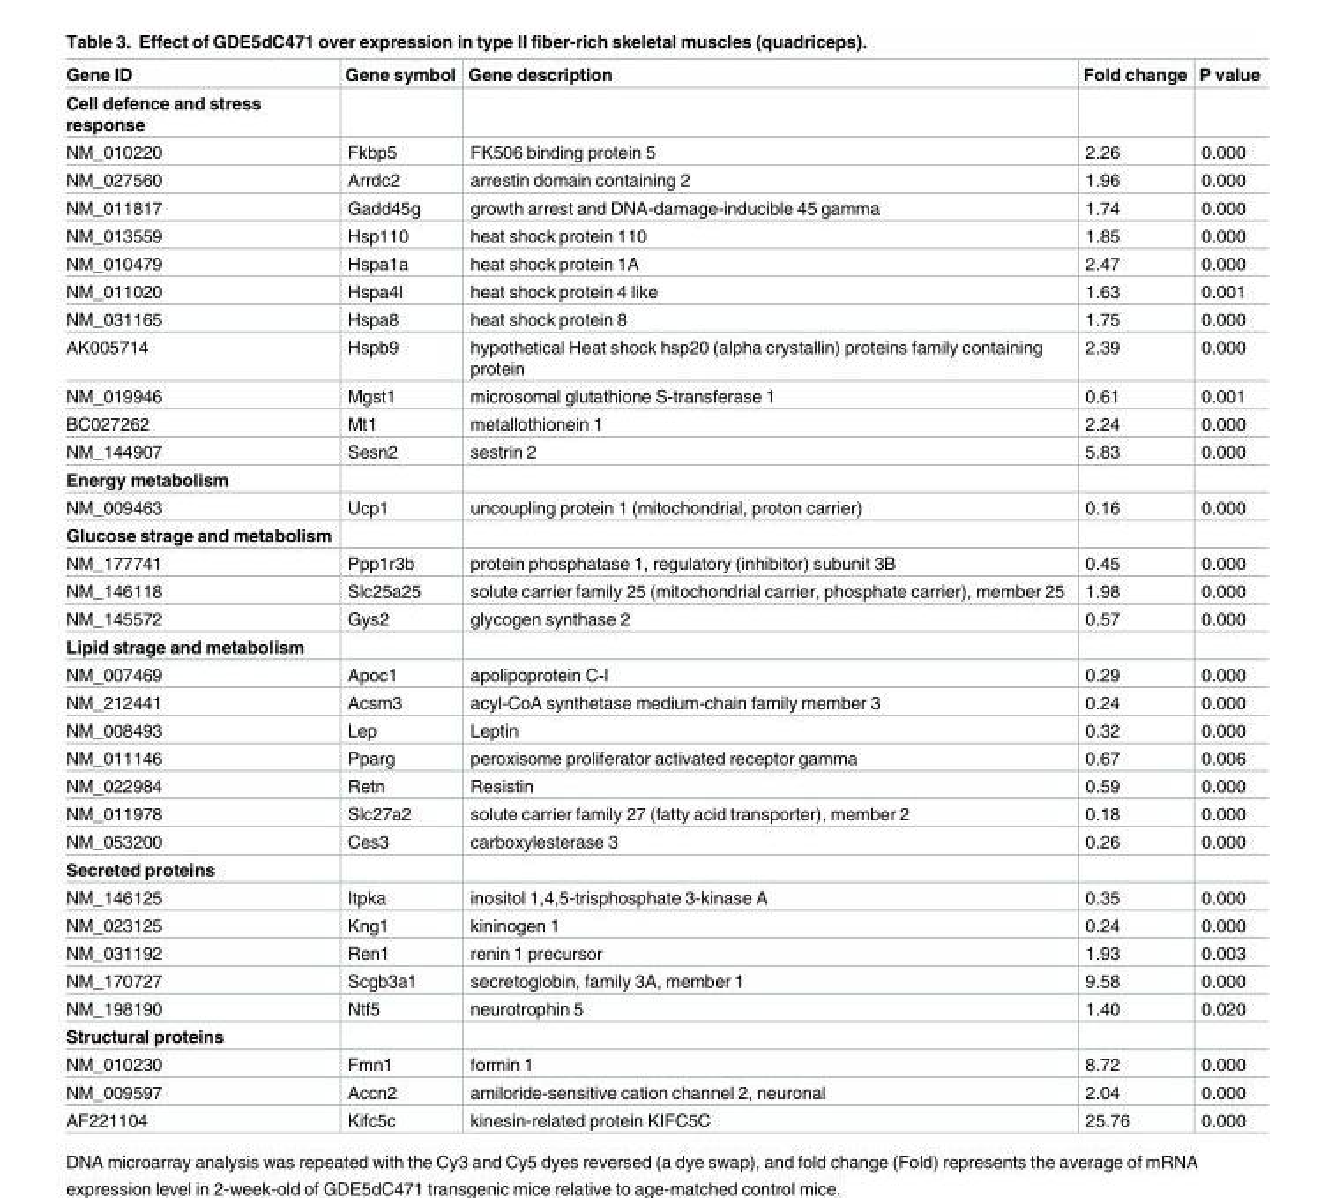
<table><thead><tr><td>Gene ID</td><td>Gene symbol</td><td>Gene description</td><td>Fold change</td><td>P value</td></tr></thead><tbody><tr><td colspan="5">Cell defence and stress response</td></tr><tr><td>NM_010220</td><td>Fkbp5</td><td>FK506 binding protein 5</td><td>2.26</td><td>0.000</td></tr><tr><td>NM_027560</td><td>Arrdc2</td><td>arrestin domain containing 2</td><td>1.96</td><td>0.000</td></tr><tr><td>NM_011817</td><td>Gadd45g</td><td>growth arrest and DNA-damage-inducible 45 gamma</td><td>1.74</td><td>0.000</td></tr><tr><td>NM_013559</td><td>Hsp110</td><td>heat shock protein 110</td><td>1.85</td><td>0.000</td></tr><tr><td>NM_010479</td><td>Hspa1a</td><td>heat shock protein 1A</td><td>2.47</td><td>0.000</td></tr><tr><td>NM_011020</td><td>Hspa4l</td><td>heat shock protein 4 like</td><td>1.63</td><td>0.001</td></tr><tr><td>NM_031165</td><td>Hspa8</td><td>heat shock protein 8</td><td>1.75</td><td>0.000</td></tr><tr><td>AK005714</td><td>Hspb9</td><td>hypothetical Heat shock hsp20 (alpha crystallin) proteins family containing protein</td><td>2.39</td><td>0.000</td></tr><tr><td>NM_019946</td><td>Mgst1</td><td>microsomal glutathione S-transferase 1</td><td>0.61</td><td>0.001</td></tr><tr><td>BC027262</td><td>Mt1</td><td>metallothionein 1</td><td>2.24</td><td>0.000</td></tr><tr><td>NM_144907</td><td>Sesn2</td><td>sestrin 2</td><td>5.83</td><td>0.000</td></tr><tr><td colspan="5">Energy metabolism</td></tr><tr><td>NM_009463</td><td>Ucp1</td><td>uncoupling protein 1 (mitochondrial, proton carrier)</td><td>0.16</td><td>0.000</td></tr><tr><td colspan="5">Glucose strage and metabolism</td></tr><tr><td>NM_177741</td><td>Ppp1r3b</td><td>protein phosphatase 1, regulatory (inhibitor) subunit 3B</td><td>0.45</td><td>0.000</td></tr><tr><td>NM_146118</td><td>Slc25a25</td><td>solute carrier family 25 (mitochondrial carrier, phosphate carrier), member 25</td><td>1.98</td><td>0.000</td></tr><tr><td>NM_145572</td><td>Gys2</td><td>glycogen synthase 2</td><td>0.57</td><td>0.000</td></tr><tr><td colspan="5">Lipid strage and metabolism</td></tr><tr><td>NM_007469</td><td>Apoc1</td><td>apolipoprotein C-I</td><td>0.29</td><td>0.000</td></tr><tr><td>NM_212441</td><td>Acsm3</td><td>acyl-CoA synthetase medium-chain family member 3</td><td>0.24</td><td>0.000</td></tr><tr><td>NM_008493</td><td>Lep</td><td>Leptin</td><td>0.32</td><td>0.000</td></tr><tr><td>NM_011146</td><td>Pparg</td><td>peroxisome proliferator activated receptor gamma</td><td>0.67</td><td>0.006</td></tr><tr><td>NM_022984</td><td>Retn</td><td>Resistin</td><td>0.59</td><td>0.000</td></tr><tr><td>NM_011978</td><td>Slc27a2</td><td>solute carrier family 27 (fatty acid transporter), member 2</td><td>0.18</td><td>0.000</td></tr><tr><td>NM_053200</td><td>Ces3</td><td>carboxylesterase 3</td><td>0.26</td><td>0.000</td></tr><tr><td colspan="5">Secreted proteins</td></tr><tr><td>NM_146125</td><td>Itpka</td><td>inositol 1,4,5-trisphosphate 3-kinase A</td><td>0.35</td><td>0.000</td></tr><tr><td>NM_023125</td><td>Kng1</td><td>kininogen 1</td><td>0.24</td><td>0.000</td></tr><tr><td>NM_031192</td><td>Ren1</td><td>renin 1 precursor</td><td>1.93</td><td>0.003</td></tr><tr><td>NM_170727</td><td>Scgb3a1</td><td>secretoglobin, family 3A, member 1</td><td>9.58</td><td>0.000</td></tr><tr><td>NM_198190</td><td>Ntf5</td><td>neurotrophin 5</td><td>1.40</td><td>0.020</td></tr><tr><td colspan="5">Structural proteins</td></tr><tr><td>NM_010230</td><td>Fmn1</td><td>formin 1</td><td>8.72</td><td>0.000</td></tr><tr><td>NM_009597</td><td>Accn2</td><td>amiloride-sensitive cation channel 2, neuronal</td><td>2.04</td><td>0.000</td></tr><tr><td>AF221104</td><td>Kifc5c</td><td>kinesin-related protein KIFC5C</td><td>25.76</td><td>0.000</td></tr></tbody></table>